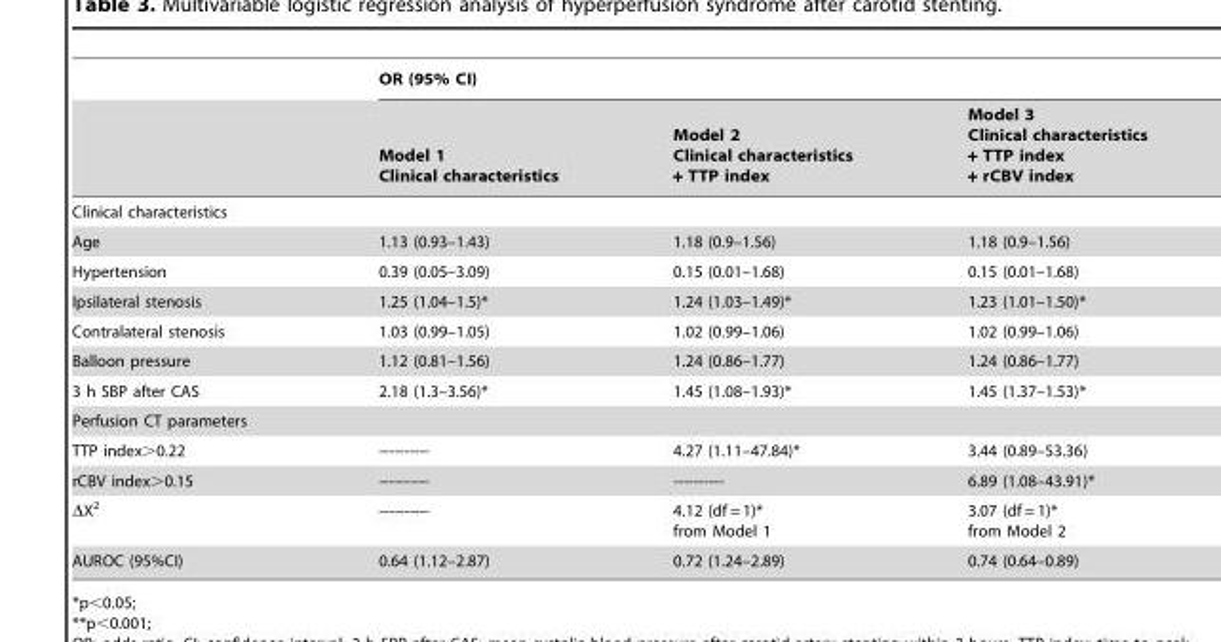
<table><thead><tr><td rowspan="2"></td><td colspan="3">OR (95% CI)</td></tr><tr><td>Model 1 Clinical characteristics</td><td>Model 2 Clinical characteristics + TTP index</td><td>Model 3 Clinical characteristics + TTP index + rCBV index</td></tr></thead><tbody><tr><td colspan="4">Clinical characteristics</td></tr><tr><td>Age</td><td>1.13 (0.93–1.43)</td><td>1.18 (0.9–1.56)</td><td>1.18 (0.9–1.56)</td></tr><tr><td>Hypertension</td><td>0.39 (0.05–3.09)</td><td>0.15 (0.01–1.68)</td><td>0.15 (0.01–1.68)</td></tr><tr><td>Ipsilateral stenosis</td><td>1.25 (1.04–1.5)*</td><td>1.24 (1.03–1.49)*</td><td>1.23 (1.01–1.50)*</td></tr><tr><td>Contralateral stenosis</td><td>1.03 (0.99–1.05)</td><td>1.02 (0.99–1.06)</td><td>1.02 (0.99–1.06)</td></tr><tr><td>Balloon pressure</td><td>1.12 (0.81–1.56)</td><td>1.24 (0.86–1.77)</td><td>1.24 (0.86–1.77)</td></tr><tr><td>3 h SBP after CAS</td><td>2.18 (1.3–3.56)*</td><td>1.45 (1.08–1.93)*</td><td>1.45 (1.37–1.53)*</td></tr><tr><td colspan="4">Perfusion CT parameters</td></tr><tr><td>TTP index&gt;0.22</td><td>----------</td><td>4.27 (1.11–47.84)*</td><td>3.44 (0.89–53.36)</td></tr><tr><td>rCBV index&gt;0.15</td><td>----------</td><td>----------</td><td>6.89 (1.08–43.91)*</td></tr><tr><td>ΔX<sup>2</sup></td><td>----------</td><td>4.12 (df = 1)* from Model 1</td><td>3.07 (df = 1)* from Model 2</td></tr><tr><td>AUROC (95%CI)</td><td>0.64 (1.12–2.87)</td><td>0.72 (1.24–2.89)</td><td>0.74 (0.64–0.89)</td></tr></tbody></table>